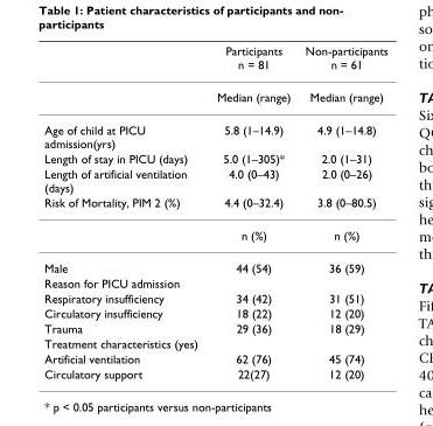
<table><thead><tr><td></td><td>Participants n = 81</td><td>Non-participants n = 61</td></tr></thead><tbody><tr><td></td><td>Median (range)</td><td>Median (range)</td></tr><tr><td>Age of child at PICU admission(yrs)</td><td>5.8 (1–14.9)</td><td>4.9 (1–14.8)</td></tr><tr><td>Length of stay in PICU (days)</td><td>5.0 (1–305)*</td><td>2.0 (1–31)</td></tr><tr><td>Length of artificial ventilation (days)</td><td>4.0 (0–43)</td><td>2.0 (0–26)</td></tr><tr><td rowspan="2">Risk of Mortality, PIM 2 (%)</td><td>4.4 (0–32.4)</td><td>3.8 (0–80.5)</td></tr><tr><td>n (%)</td><td>n (%)</td></tr><tr><td>Male</td><td>44 (54)</td><td>36 (59)</td></tr><tr><td colspan="3">Reason for PICU admission</td></tr><tr><td>Respiratory insufficiency</td><td>34 (42)</td><td>31 (51)</td></tr><tr><td>Circulatory insufficiency</td><td>18 (22)</td><td>12 (20)</td></tr><tr><td>Trauma</td><td>29 (36)</td><td>18 (29)</td></tr><tr><td colspan="3">Treatment characteristics (yes)</td></tr><tr><td>Artificial ventilation</td><td>62 (76)</td><td>45 (74)</td></tr><tr><td>Circulatory support</td><td>22(27)</td><td>12 (20)</td></tr></tbody></table>